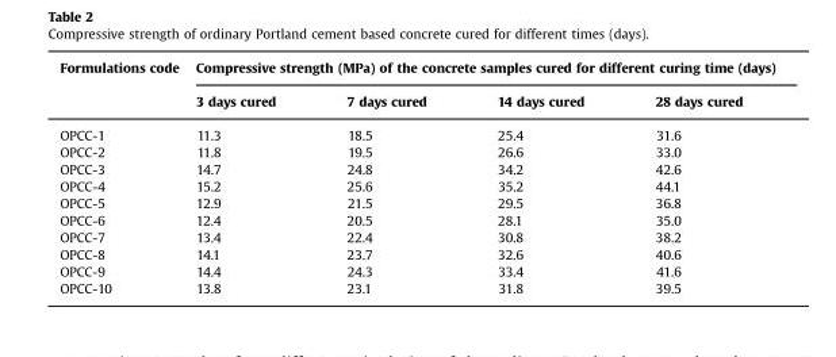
<table><thead><tr><td rowspan="2">Formulations code</td><td colspan="4">Compressive strength (MPa) of the concrete samples cured for different curing time (days)</td></tr><tr><td>3 days cured</td><td>7 days cured</td><td>14 days cured</td><td>28 days cured</td></tr></thead><tbody><tr><td>OPCC-1</td><td>11.3</td><td>18.5</td><td>25.4</td><td>31.6</td></tr><tr><td>OPCC-2</td><td>11.8</td><td>19.5</td><td>26.6</td><td>33.0</td></tr><tr><td>OPCC-3</td><td>14.7</td><td>24.8</td><td>34.2</td><td>42.6</td></tr><tr><td>OPCC-4</td><td>15.2</td><td>25.6</td><td>35.2</td><td>44.1</td></tr><tr><td>OPCC-5</td><td>12.9</td><td>21.5</td><td>29.5</td><td>36.8</td></tr><tr><td>OPCC-6</td><td>12.4</td><td>20.5</td><td>28.1</td><td>35.0</td></tr><tr><td>OPCC-7</td><td>13.4</td><td>22.4</td><td>30.8</td><td>38.2</td></tr><tr><td>OPCC-8</td><td>14.1</td><td>23.7</td><td>32.6</td><td>40.6</td></tr><tr><td>OPCC-9</td><td>14.4</td><td>24.3</td><td>33.4</td><td>41.6</td></tr><tr><td>OPCC-10</td><td>13.8</td><td>23.1</td><td>31.8</td><td>39.5</td></tr></tbody></table>